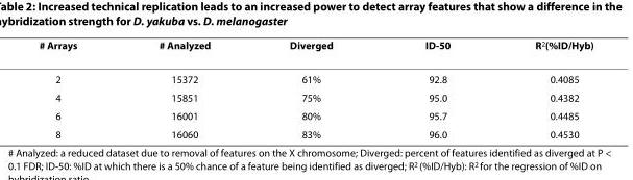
<table><thead><tr><td># Arrays</td><td># Analyzed</td><td>Diverged</td><td>ID-50</td><td>R<sup>2</sup>(%ID/Hyb)</td></tr></thead><tbody><tr><td>2</td><td>15372</td><td>61%</td><td>92.8</td><td>0.4085</td></tr><tr><td>4</td><td>15851</td><td>75%</td><td>95.0</td><td>0.4382</td></tr><tr><td>6</td><td>16001</td><td>80%</td><td>95.7</td><td>0.4485</td></tr><tr><td>8</td><td>16060</td><td>83%</td><td>96.0</td><td>0.4530</td></tr></tbody></table>